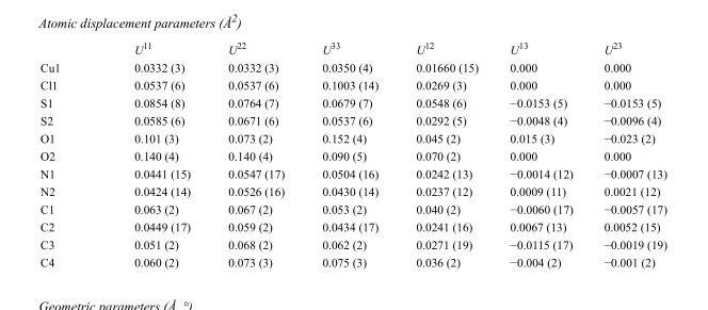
<table><thead><tr><td></td><td>U<sup>11</sup></td><td>U<sup>22</sup></td><td>U<sup>33</sup></td><td>U<sup>12</sup></td><td>U<sup>13</sup></td><td>U<sup>23</sup></td></tr></thead><tbody><tr><td>Cu1</td><td>0.0332 (3)</td><td>0.0332 (3)</td><td>0.0350 (4)</td><td>0.01660 (15)</td><td>0.000</td><td>0.000</td></tr><tr><td>Cl1</td><td>0.0537 (6)</td><td>0.0537 (6)</td><td>0.1003 (14)</td><td>0.0269 (3)</td><td>0.000</td><td>0.000</td></tr><tr><td>S1</td><td>0.0854 (8)</td><td>0.0764 (7)</td><td>0.0679 (7)</td><td>0.0548 (6)</td><td>−0.0153 (5)</td><td>−0.0153 (5)</td></tr><tr><td>S2</td><td>0.0585 (6)</td><td>0.0671 (6)</td><td>0.0537 (6)</td><td>0.0292 (5)</td><td>−0.0048 (4)</td><td>−0.0096 (4)</td></tr><tr><td>O1</td><td>0.101 (3)</td><td>0.073 (2)</td><td>0.152 (4)</td><td>0.045 (2)</td><td>0.015 (3)</td><td>−0.023 (2)</td></tr><tr><td>O2</td><td>0.140 (4)</td><td>0.140 (4)</td><td>0.090 (5)</td><td>0.070 (2)</td><td>0.000</td><td>0.000</td></tr><tr><td>N1</td><td>0.0441 (15)</td><td>0.0547 (17)</td><td>0.0504 (16)</td><td>0.0242 (13)</td><td>−0.0014 (12)</td><td>−0.0007 (13)</td></tr><tr><td>N2</td><td>0.0424 (14)</td><td>0.0526 (16)</td><td>0.0430 (14)</td><td>0.0237 (12)</td><td>0.0009 (11)</td><td>0.0021 (12)</td></tr><tr><td>C1</td><td>0.063 (2)</td><td>0.067 (2)</td><td>0.053 (2)</td><td>0.040 (2)</td><td>−0.0060 (17)</td><td>−0.0057 (17)</td></tr><tr><td>C2</td><td>0.0449 (17)</td><td>0.059 (2)</td><td>0.0434 (17)</td><td>0.0241 (16)</td><td>0.0067 (13)</td><td>0.0052 (15)</td></tr><tr><td>C3</td><td>0.051 (2)</td><td>0.068 (2)</td><td>0.062 (2)</td><td>0.0271 (19)</td><td>−0.0115 (17)</td><td>−0.0019 (19)</td></tr><tr><td>C4</td><td>0.060 (2)</td><td>0.073 (3)</td><td>0.075 (3)</td><td>0.036 (2)</td><td>−0.004 (2)</td><td>−0.001 (2)</td></tr></tbody></table>